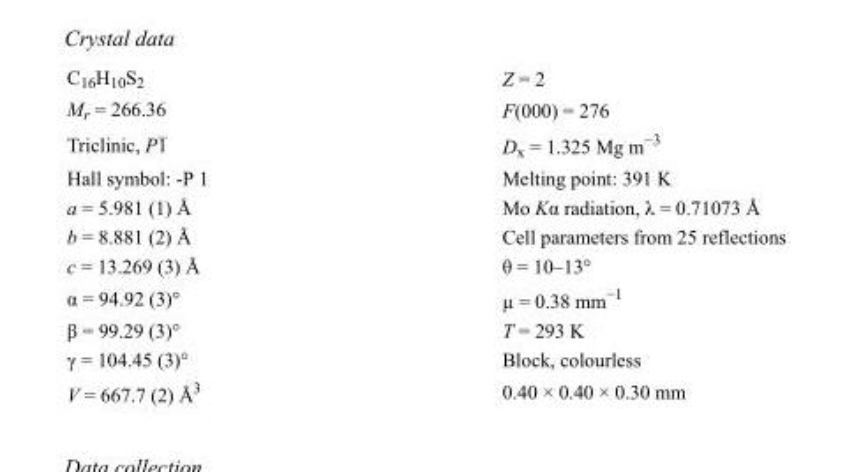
<table><tbody><tr><td>C<sub>16</sub>H<sub>10</sub>S<sub>2</sub></td><td>Z = 2</td></tr><tr><td>M<sub>r</sub> = 266.36</td><td>F(000) = 276</td></tr><tr><td>Triclinic, P1</td><td>D<sub>x</sub> = 1.325 Mg m<sup>−3</sup></td></tr><tr><td>Hall symbol: -P 1</td><td>Melting point: 391 K</td></tr><tr><td>a = 5.981 (1) Å</td><td>Mo Kα radiation, λ = 0.71073 Å</td></tr><tr><td>b = 8.881 (2) Å</td><td>Cell parameters from 25 reflections</td></tr><tr><td>c = 13.269 (3) Å</td><td>θ = 10–13°</td></tr><tr><td>α = 94.92 (3)°</td><td>µ = 0.38 mm<sup>−1</sup></td></tr><tr><td>β = 99.29 (3)°</td><td>T = 293 K</td></tr><tr><td>γ = 104.45 (3)°</td><td>Block, colourless</td></tr><tr><td>V = 667.7 (2) Å<sup>3</sup></td><td>0.40 × 0.40 × 0.30 mm</td></tr></tbody></table>